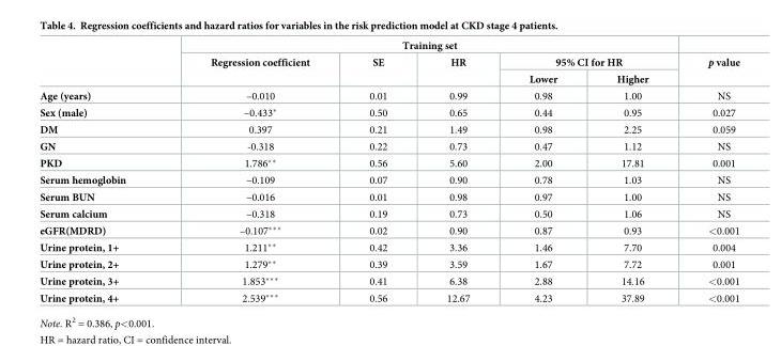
<table><thead><tr><td rowspan="3"></td><td colspan="5">Training set</td><td rowspan="3">p value</td></tr><tr><td rowspan="2">Regression coefficient</td><td rowspan="2">SE</td><td rowspan="2">HR</td><td colspan="2">95% CI for HR</td></tr><tr><td>Lower</td><td>Higher</td></tr></thead><tbody><tr><td>Age (years)</td><td>–0.010</td><td>0.01</td><td>0.99</td><td>0.98</td><td>1.00</td><td>NS</td></tr><tr><td>Sex (male)</td><td>–0.433*</td><td>0.50</td><td>0.65</td><td>0.44</td><td>0.95</td><td>0.027</td></tr><tr><td>DM</td><td>0.397</td><td>0.21</td><td>1.49</td><td>0.98</td><td>2.25</td><td>0.059</td></tr><tr><td>GN</td><td>-0.318</td><td>0.22</td><td>0.73</td><td>0.47</td><td>1.12</td><td>NS</td></tr><tr><td>PKD</td><td>1.786**</td><td>0.56</td><td>5.60</td><td>2.00</td><td>17.81</td><td>0.001</td></tr><tr><td>Serum hemoglobin</td><td>–0.109</td><td>0.07</td><td>0.90</td><td>0.78</td><td>1.03</td><td>NS</td></tr><tr><td>Serum BUN</td><td>–0.016</td><td>0.01</td><td>0.98</td><td>0.97</td><td>1.00</td><td>NS</td></tr><tr><td>Serum calcium</td><td>–0.318</td><td>0.19</td><td>0.73</td><td>0.50</td><td>1.06</td><td>NS</td></tr><tr><td>eGFR(MDRD)</td><td>–0.107***</td><td>0.02</td><td>0.90</td><td>0.87</td><td>0.93</td><td>&lt;0.001</td></tr><tr><td>Urine protein, 1+</td><td>1.211**</td><td>0.42</td><td>3.36</td><td>1.46</td><td>7.70</td><td>0.004</td></tr><tr><td>Urine protein, 2+</td><td>1.279**</td><td>0.39</td><td>3.59</td><td>1.67</td><td>7.72</td><td>0.001</td></tr><tr><td>Urine protein, 3+</td><td>1.853***</td><td>0.41</td><td>6.38</td><td>2.88</td><td>14.16</td><td>&lt;0.001</td></tr><tr><td>Urine protein, 4+</td><td>2.539***</td><td>0.56</td><td>12.67</td><td>4.23</td><td>37.89</td><td>&lt;0.001</td></tr></tbody></table>